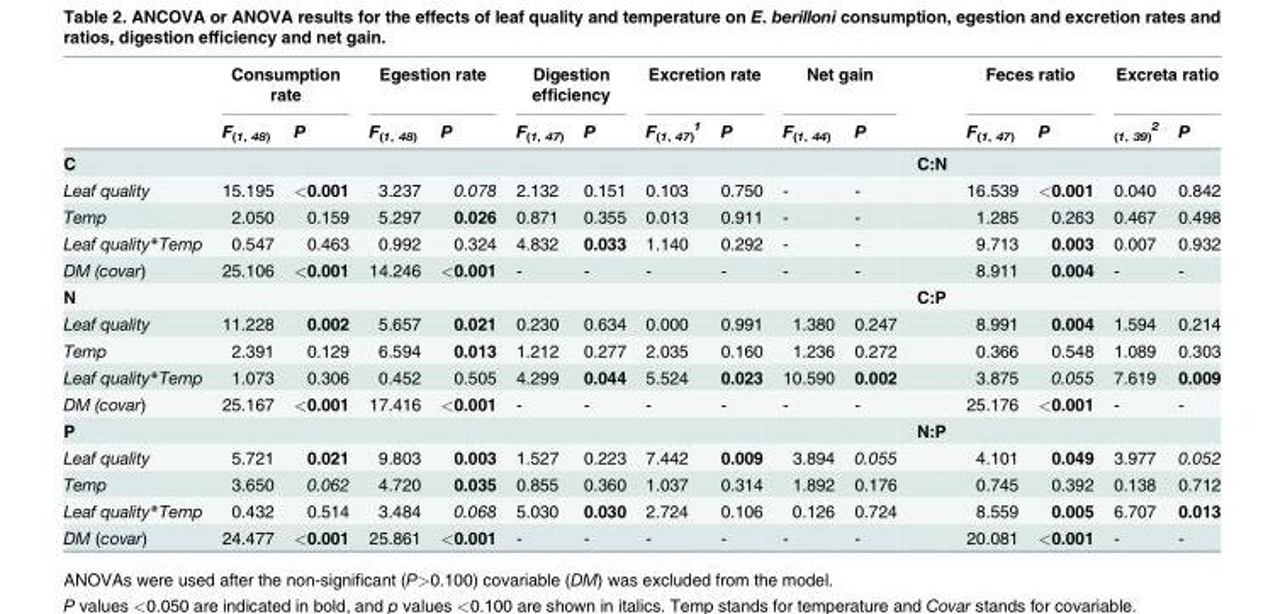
<table><thead><tr><td rowspan="2"></td><td colspan="2">Consumption rate</td><td colspan="2">Egestion rate</td><td colspan="2">Digestion efficiency</td><td colspan="2">Excretion rate</td><td colspan="2">Net gain</td><td rowspan="2"></td><td colspan="2">Feces ratio</td><td colspan="2">Excreta ratio</td></tr><tr><td>F<sub>(1, 48)</sub></td><td>P</td><td>F<sub>(1, 48)</sub></td><td>P</td><td>F<sub>(1, 47)</sub></td><td>P</td><td>F<sub>(1, 47)</sub> <sup>1</sup></td><td>P</td><td>F<sub>(1, 44)</sub></td><td>P</td><td>F<sub>(1, 47)</sub></td><td>P</td><td><sub>(1, 39)</sub> <sup>2</sup></td><td>P</td></tr></thead><tbody><tr><td>C</td><td></td><td></td><td></td><td></td><td></td><td></td><td></td><td></td><td></td><td></td><td>C:N</td><td></td><td></td><td></td><td></td></tr><tr><td>Leaf quality</td><td>15.195</td><td>&lt;0.001</td><td>3.237</td><td>0.078</td><td>2.132</td><td>0.151</td><td>0.103</td><td>0.750</td><td>-</td><td>-</td><td></td><td>16.539</td><td>&lt;0.001</td><td>0.040</td><td>0.842</td></tr><tr><td>Temp</td><td>2.050</td><td>0.159</td><td>5.297</td><td>0.026</td><td>0.871</td><td>0.355</td><td>0.013</td><td>0.911</td><td>-</td><td>-</td><td></td><td>1.285</td><td>0.263</td><td>0.467</td><td>0.498</td></tr><tr><td>Leaf quality*Temp</td><td>0.547</td><td>0.463</td><td>0.992</td><td>0.324</td><td>4.832</td><td>0.033</td><td>1.140</td><td>0.292</td><td>-</td><td>-</td><td></td><td>9.713</td><td>0.003</td><td>0.007</td><td>0.932</td></tr><tr><td>DM (covar)</td><td>25.106</td><td>&lt;0.001</td><td>14.246</td><td>&lt;0.001</td><td>-</td><td>-</td><td>-</td><td>-</td><td>-</td><td>-</td><td></td><td>8.911</td><td>0.004</td><td>-</td><td>-</td></tr><tr><td>N</td><td></td><td></td><td></td><td></td><td></td><td></td><td></td><td></td><td></td><td></td><td>C:P</td><td></td><td></td><td></td><td></td></tr><tr><td>Leaf quality</td><td>11.228</td><td>0.002</td><td>5.657</td><td>0.021</td><td>0.230</td><td>0.634</td><td>0.000</td><td>0.991</td><td>1.380</td><td>0.247</td><td></td><td>8.991</td><td>0.004</td><td>1.594</td><td>0.214</td></tr><tr><td>Temp</td><td>2.391</td><td>0.129</td><td>6.594</td><td>0.013</td><td>1.212</td><td>0.277</td><td>2.035</td><td>0.160</td><td>1.236</td><td>0.272</td><td></td><td>0.366</td><td>0.548</td><td>1.089</td><td>0.303</td></tr><tr><td>Leaf quality*Temp</td><td>1.073</td><td>0.306</td><td>0.452</td><td>0.505</td><td>4.299</td><td>0.044</td><td>5.524</td><td>0.023</td><td>10.590</td><td>0.002</td><td></td><td>3.875</td><td>0.055</td><td>7.619</td><td>0.009</td></tr><tr><td>DM (covar)</td><td>25.167</td><td>&lt;0.001</td><td>17.416</td><td>&lt;0.001</td><td>-</td><td>-</td><td>-</td><td>-</td><td>-</td><td>-</td><td></td><td>25.176</td><td>&lt;0.001</td><td>-</td><td>-</td></tr><tr><td>P</td><td></td><td></td><td></td><td></td><td></td><td></td><td></td><td></td><td></td><td></td><td>N:P</td><td></td><td></td><td></td><td></td></tr><tr><td>Leaf quality</td><td>5.721</td><td>0.021</td><td>9.803</td><td>0.003</td><td>1.527</td><td>0.223</td><td>7.442</td><td>0.009</td><td>3.894</td><td>0.055</td><td></td><td>4.101</td><td>0.049</td><td>3.977</td><td>0.052</td></tr><tr><td>Temp</td><td>3.650</td><td>0.062</td><td>4.720</td><td>0.035</td><td>0.855</td><td>0.360</td><td>1.037</td><td>0.314</td><td>1.892</td><td>0.176</td><td></td><td>0.745</td><td>0.392</td><td>0.138</td><td>0.712</td></tr><tr><td>Leaf quality*Temp</td><td>0.432</td><td>0.514</td><td>3.484</td><td>0.068</td><td>5.030</td><td>0.030</td><td>2.724</td><td>0.106</td><td>0.126</td><td>0.724</td><td></td><td>8.559</td><td>0.005</td><td>6.707</td><td>0.013</td></tr><tr><td>DM (covar)</td><td>24.477</td><td>&lt;0.001</td><td>25.861</td><td>&lt;0.001</td><td>-</td><td>-</td><td>-</td><td>-</td><td>-</td><td>-</td><td></td><td>20.081</td><td>&lt;0.001</td><td>-</td><td>-</td></tr></tbody></table>